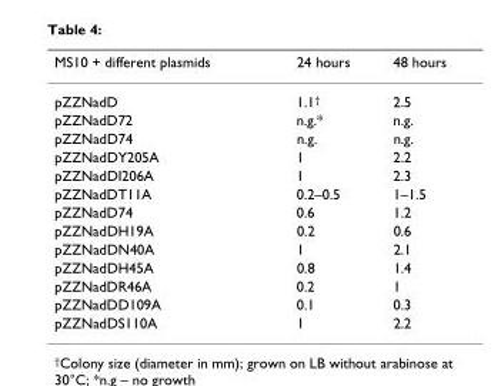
<table><thead><tr><td>MS10 + different plasmids</td><td>24 hours</td><td>48 hours</td></tr></thead><tbody><tr><td>pZZNadD</td><td>1.1<sup>†</sup></td><td>2.5</td></tr><tr><td>pZZNadD72</td><td>n.g.*</td><td>n.g.</td></tr><tr><td>pZZNadD74</td><td>n.g.</td><td>n.g.</td></tr><tr><td>pZZNadDY205A</td><td>1</td><td>2.2</td></tr><tr><td>pZZNadDI206A</td><td>1</td><td>2.3</td></tr><tr><td>pZZNadDT11A</td><td>0.2–0.5</td><td>1–1.5</td></tr><tr><td>pZZNadD74</td><td>0.6</td><td>1.2</td></tr><tr><td>pZZNadDH19A</td><td>0.2</td><td>0.6</td></tr><tr><td>pZZNadDN40A</td><td>1</td><td>2.1</td></tr><tr><td>pZZNadDH45A</td><td>0.8</td><td>1.4</td></tr><tr><td>pZZNadDR46A</td><td>0.2</td><td>1</td></tr><tr><td>pZZNadDD109A</td><td>0.1</td><td>0.3</td></tr><tr><td>pZZNadDS110A</td><td>1</td><td>2.2</td></tr></tbody></table>